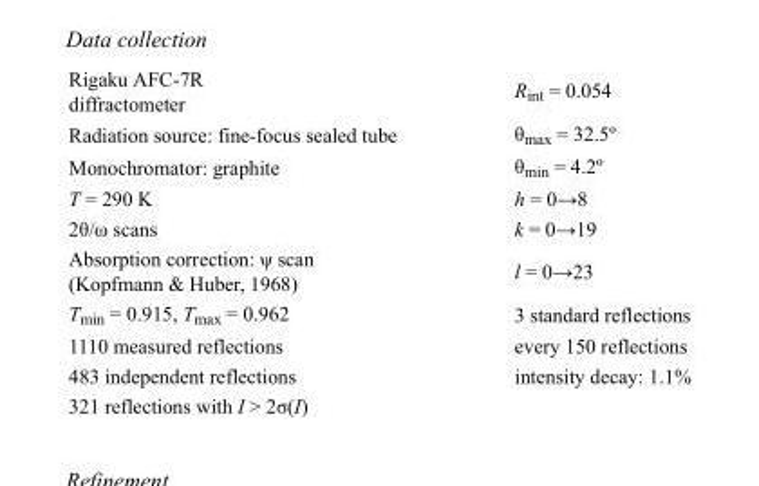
<table><tbody><tr><td>Rigaku AFC-7R diffractometer</td><td>R<sub>int</sub> = 0.054</td></tr><tr><td>Radiation source: fine-focus sealed tube</td><td>θ<sub>max</sub> = 32.5º</td></tr><tr><td>Monochromator: graphite</td><td>θ<sub>min</sub> = 4.2º</td></tr><tr><td>T = 290 K</td><td>h = 0→8</td></tr><tr><td>2θ/ω scans</td><td>k = 0→19</td></tr><tr><td>Absorption correction: ψ scan (Kopfmann &amp; Huber, 1968)</td><td>l = 0→23</td></tr><tr><td>T<sub>min</sub> = 0.915, T<sub>max</sub> = 0.962</td><td>3 standard reflections</td></tr><tr><td>1110 measured reflections</td><td>every 150 reflections</td></tr><tr><td>483 independent reflections</td><td>intensity decay: 1.1%</td></tr><tr><td>321 reflections with I &gt; 2σ(I)</td><td></td></tr></tbody></table>